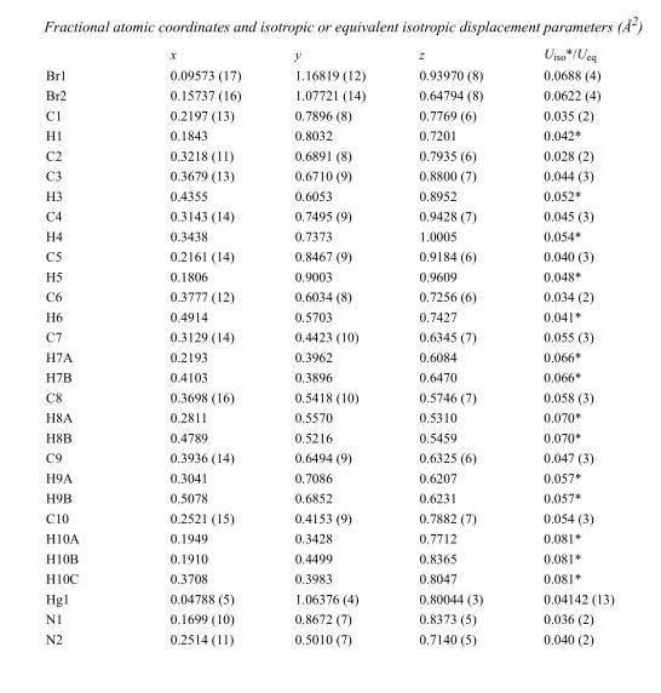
<table><thead><tr><td></td><td>x</td><td>y</td><td>z</td><td>U<sub>iso</sub>*/U<sub>eq</sub></td></tr></thead><tbody><tr><td>Br1</td><td>0.09573 (17)</td><td>1.16819 (12)</td><td>0.93970 (8)</td><td>0.0688 (4)</td></tr><tr><td>Br2</td><td>0.15737 (16)</td><td>1.07721 (14)</td><td>0.64794 (8)</td><td>0.0622 (4)</td></tr><tr><td>C1</td><td>0.2197 (13)</td><td>0.7896 (8)</td><td>0.7769 (6)</td><td>0.035 (2)</td></tr><tr><td>H1</td><td>0.1843</td><td>0.8032</td><td>0.7201</td><td>0.042*</td></tr><tr><td>C2</td><td>0.3218 (11)</td><td>0.6891 (8)</td><td>0.7935 (6)</td><td>0.028 (2)</td></tr><tr><td>C3</td><td>0.3679 (13)</td><td>0.6710 (9)</td><td>0.8800 (7)</td><td>0.044 (3)</td></tr><tr><td>H3</td><td>0.4355</td><td>0.6053</td><td>0.8952</td><td>0.052*</td></tr><tr><td>C4</td><td>0.3143 (14)</td><td>0.7495 (9)</td><td>0.9428 (7)</td><td>0.045 (3)</td></tr><tr><td>H4</td><td>0.3438</td><td>0.7373</td><td>1.0005</td><td>0.054*</td></tr><tr><td>C5</td><td>0.2161 (14)</td><td>0.8467 (9)</td><td>0.9184 (6)</td><td>0.040 (3)</td></tr><tr><td>H5</td><td>0.1806</td><td>0.9003</td><td>0.9609</td><td>0.048*</td></tr><tr><td>C6</td><td>0.3777 (12)</td><td>0.6034 (8)</td><td>0.7256 (6)</td><td>0.034 (2)</td></tr><tr><td>H6</td><td>0.4914</td><td>0.5703</td><td>0.7427</td><td>0.041*</td></tr><tr><td>C7</td><td>0.3129 (14)</td><td>0.4423 (10)</td><td>0.6345 (7)</td><td>0.055 (3)</td></tr><tr><td>H7A</td><td>0.2193</td><td>0.3962</td><td>0.6084</td><td>0.066*</td></tr><tr><td>H7B</td><td>0.4103</td><td>0.3896</td><td>0.6470</td><td>0.066*</td></tr><tr><td>C8</td><td>0.3698 (16)</td><td>0.5418 (10)</td><td>0.5746 (7)</td><td>0.058 (3)</td></tr><tr><td>H8A</td><td>0.2811</td><td>0.5570</td><td>0.5310</td><td>0.070*</td></tr><tr><td>H8B</td><td>0.4789</td><td>0.5216</td><td>0.5459</td><td>0.070*</td></tr><tr><td>C9</td><td>0.3936 (14)</td><td>0.6494 (9)</td><td>0.6325 (6)</td><td>0.047 (3)</td></tr><tr><td>H9A</td><td>0.3041</td><td>0.7086</td><td>0.6207</td><td>0.057*</td></tr><tr><td>H9B</td><td>0.5078</td><td>0.6852</td><td>0.6231</td><td>0.057*</td></tr><tr><td>C10</td><td>0.2521 (15)</td><td>0.4153 (9)</td><td>0.7882 (7)</td><td>0.054 (3)</td></tr><tr><td>H10A</td><td>0.1949</td><td>0.3428</td><td>0.7712</td><td>0.081*</td></tr><tr><td>H10B</td><td>0.1910</td><td>0.4499</td><td>0.8365</td><td>0.081*</td></tr><tr><td>H10C</td><td>0.3708</td><td>0.3983</td><td>0.8047</td><td>0.081*</td></tr><tr><td>Hg1</td><td>0.04788 (5)</td><td>1.06376 (4)</td><td>0.80044 (3)</td><td>0.04142 (13)</td></tr><tr><td>N1</td><td>0.1699 (10)</td><td>0.8672 (7)</td><td>0.8373 (5)</td><td>0.036 (2)</td></tr><tr><td>N2</td><td>0.2514 (11)</td><td>0.5010 (7)</td><td>0.7140 (5)</td><td>0.040 (2)</td></tr></tbody></table>